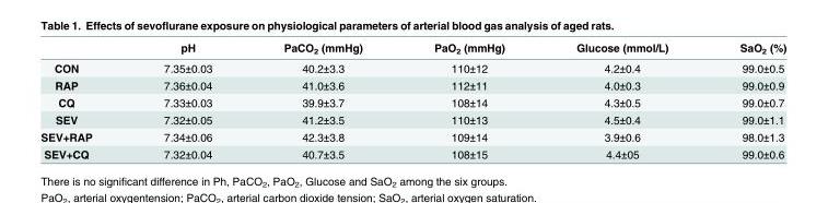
<table><thead><tr><td></td><td>pH</td><td>PaCO<sub>2</sub> (mmHg)</td><td>PaO<sub>2</sub> (mmHg)</td><td>Glucose (mmol/L)</td><td>SaO<sub>2</sub> (%)</td></tr></thead><tbody><tr><td>CON</td><td>7.35±0.03</td><td>40.2±3.3</td><td>110±12</td><td>4.2±0.4</td><td>99.0±0.5</td></tr><tr><td>RAP</td><td>7.36±0.04</td><td>41.0±3.6</td><td>112±11</td><td>4.0±0.3</td><td>99.0±0.9</td></tr><tr><td>CQ</td><td>7.33±0.03</td><td>39.9±3.7</td><td>108±14</td><td>4.3±0.5</td><td>99.0±0.7</td></tr><tr><td>SEV</td><td>7.32±0.05</td><td>41.2±3.5</td><td>110±13</td><td>4.5±0.4</td><td>99.0±1.1</td></tr><tr><td>SEV+RAP</td><td>7.34±0.06</td><td>42.3±3.8</td><td>109±14</td><td>3.9±0.6</td><td>98.0±1.3</td></tr><tr><td>SEV+CQ</td><td>7.32±0.04</td><td>40.7±3.5</td><td>108±15</td><td>4.4±05</td><td>99.0±0.6</td></tr></tbody></table>